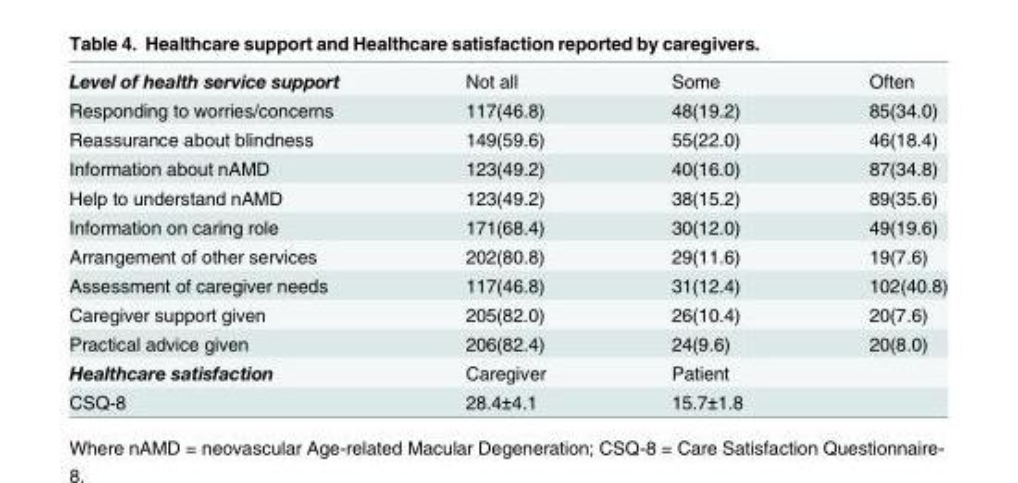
<table><tbody><tr><td>Level of health service support</td><td>Not all</td><td>Some</td><td>Often</td></tr><tr><td>Responding to worries/concerns</td><td>117(46.8)</td><td>48(19.2)</td><td>85(34.0)</td></tr><tr><td>Reassurance about blindness</td><td>149(59.6)</td><td>55(22.0)</td><td>46(18.4)</td></tr><tr><td>Information about nAMD</td><td>123(49.2)</td><td>40(16.0)</td><td>87(34.8)</td></tr><tr><td>Help to understand nAMD</td><td>123(49.2)</td><td>38(15.2)</td><td>89(35.6)</td></tr><tr><td>Information on caring role</td><td>171(68.4)</td><td>30(12.0)</td><td>49(19.6)</td></tr><tr><td>Arrangement of other services</td><td>202(80.8)</td><td>29(11.6)</td><td>19(7.6)</td></tr><tr><td>Assessment of caregiver needs</td><td>117(46.8)</td><td>31(12.4)</td><td>102(40.8)</td></tr><tr><td>Caregiver support given</td><td>205(82.0)</td><td>26(10.4)</td><td>20(7.6)</td></tr><tr><td>Practical advice given</td><td>206(82.4)</td><td>24(9.6)</td><td>20(8.0)</td></tr><tr><td>Healthcare satisfaction</td><td>Caregiver</td><td>Patient</td><td></td></tr><tr><td>CSQ-8</td><td>28.4±4.1</td><td>15.7±1.8</td><td></td></tr></tbody></table>